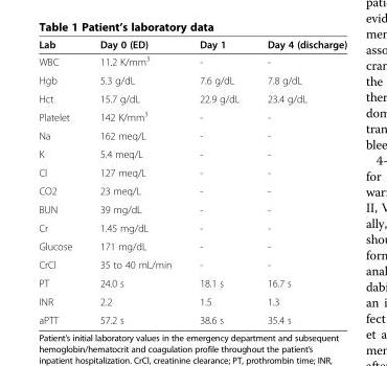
<table><thead><tr><td>Lab</td><td>Day 0 (ED)</td><td>Day 1</td><td>Day 4 (discharge)</td></tr></thead><tbody><tr><td>WBC</td><td>11.2 K/mm<sup>3</sup></td><td>-</td><td>-</td></tr><tr><td>Hgb</td><td>5.3 g/dL</td><td>7.6 g/dL</td><td>7.8 g/dL</td></tr><tr><td>Hct</td><td>15.7 g/dL</td><td>22.9 g/dL</td><td>23.4 g/dL</td></tr><tr><td>Platelet</td><td>142 K/mm<sup>3</sup></td><td>-</td><td>-</td></tr><tr><td>Na</td><td>162 meq/L</td><td>-</td><td>-</td></tr><tr><td>K</td><td>5.4 meq/L</td><td>-</td><td>-</td></tr><tr><td>Cl</td><td>127 meq/L</td><td>-</td><td>-</td></tr><tr><td>CO2</td><td>23 meq/L</td><td>-</td><td>-</td></tr><tr><td>BUN</td><td>39 mg/dL</td><td>-</td><td>-</td></tr><tr><td>Cr</td><td>1.45 mg/dL</td><td>-</td><td>-</td></tr><tr><td>Glucose</td><td>171 mg/dL</td><td>-</td><td>-</td></tr><tr><td>CrCl</td><td>35 to 40 mL/min</td><td>-</td><td>-</td></tr><tr><td>PT</td><td>24.0 s</td><td>18.1 s</td><td>16.7 s</td></tr><tr><td>INR</td><td>2.2</td><td>1.5</td><td>1.3</td></tr><tr><td>aPTT</td><td>57.2 s</td><td>38.6 s</td><td>35.4 s</td></tr></tbody></table>